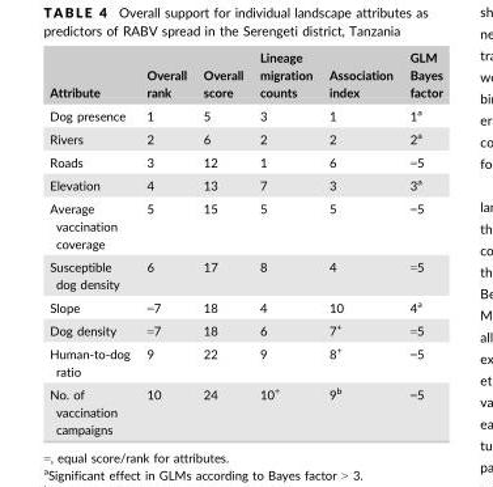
<table><thead><tr><td>Attribute</td><td>Overall rank</td><td>Overall score</td><td>Lineage migration counts</td><td>Association index</td><td>GLM Bayes factor</td></tr></thead><tbody><tr><td>Dog presence</td><td>1</td><td>5</td><td>3</td><td>1</td><td>1<sup>a</sup></td></tr><tr><td>Rivers</td><td>2</td><td>6</td><td>2</td><td>2</td><td>2<sup>a</sup></td></tr><tr><td>Roads</td><td>3</td><td>12</td><td>1</td><td>6</td><td>=5</td></tr><tr><td>Elevation</td><td>4</td><td>13</td><td>7</td><td>3</td><td>3<sup>a</sup></td></tr><tr><td>Average vaccination coverage</td><td>5</td><td>15</td><td>5</td><td>5</td><td>=5</td></tr><tr><td>Susceptible dog density</td><td>6</td><td>17</td><td>8</td><td>4</td><td>=5</td></tr><tr><td>Slope</td><td>=7</td><td>18</td><td>4</td><td>10</td><td>4<sup>a</sup></td></tr><tr><td>Dog density</td><td>=7</td><td>18</td><td>6</td><td>7<sup>+</sup></td><td>=5</td></tr><tr><td>Human-to-dog ratio</td><td>9</td><td>22</td><td>9</td><td>8<sup>+</sup></td><td>=5</td></tr><tr><td>No. of vaccination campaigns</td><td>10</td><td>24</td><td>10<sup>+</sup></td><td>9<sup>b</sup></td><td>=5</td></tr></tbody></table>